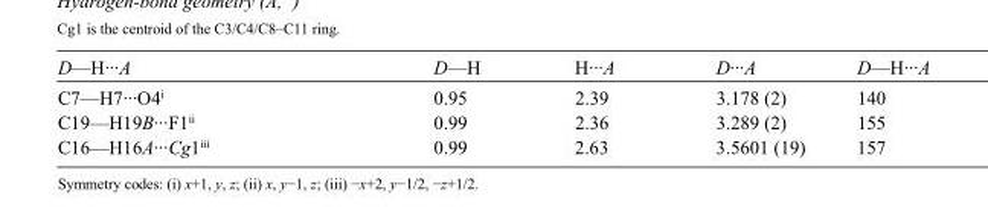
<table><tbody><tr><td>D—H···A</td><td>D—H</td><td>H···A</td><td>D···A</td><td>D—H···A</td></tr><tr><td>C7—H7···O4<sup>i</sup></td><td>0.95</td><td>2.39</td><td>3.178 (2)</td><td>140</td></tr><tr><td>C19—H19B···F1<sup>ii</sup></td><td>0.99</td><td>2.36</td><td>3.289 (2)</td><td>155</td></tr><tr><td>C16—H16A···Cg1<sup>iii</sup></td><td>0.99</td><td>2.63</td><td>3.5601 (19)</td><td>157</td></tr></tbody></table>